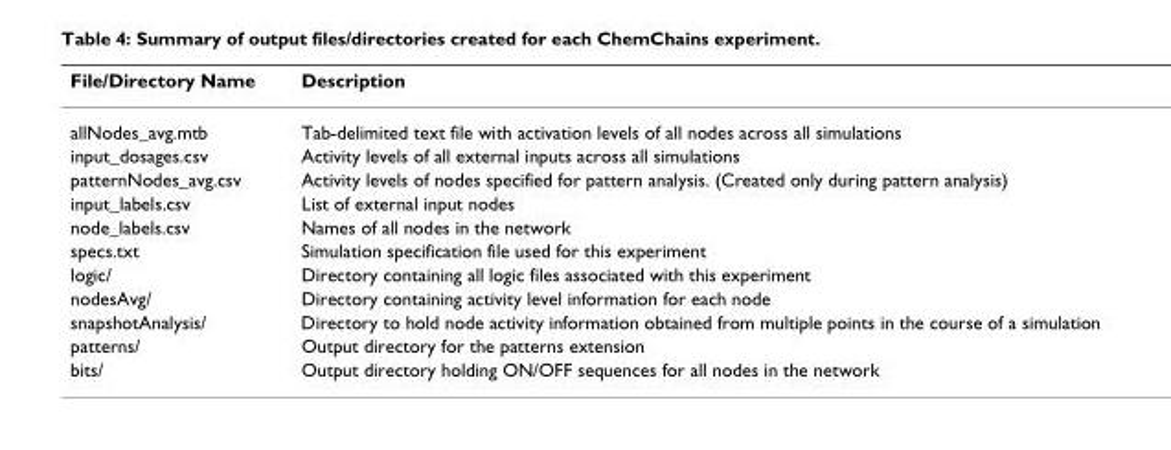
<table><thead><tr><td>File/Directory Name</td><td>Description</td></tr></thead><tbody><tr><td>allNodes_avg.mtb</td><td>Tab-delimited text file with activation levels of all nodes across all simulations</td></tr><tr><td>input_dosages.csv</td><td>Activity levels of all external inputs across all simulations</td></tr><tr><td>patternNodes_avg.csv</td><td>Activity levels of nodes specified for pattern analysis. (Created only during pattern analysis)</td></tr><tr><td>input_labels.csv</td><td>List of external input nodes</td></tr><tr><td>node_labels.csv</td><td>Names of all nodes in the network</td></tr><tr><td>specs.txt</td><td>Simulation specification file used for this experiment</td></tr><tr><td>logic/</td><td>Directory containing all logic files associated with this experiment</td></tr><tr><td>nodesAvg/</td><td>Directory containing activity level information for each node</td></tr><tr><td>snapshotAnalysis/</td><td>Directory to hold node activity information obtained from multiple points in the course of a simulation</td></tr><tr><td>patterns/</td><td>Output directory for the patterns extension</td></tr><tr><td>bits/</td><td>Output directory holding ON/OFF sequences for all nodes in the network</td></tr></tbody></table>